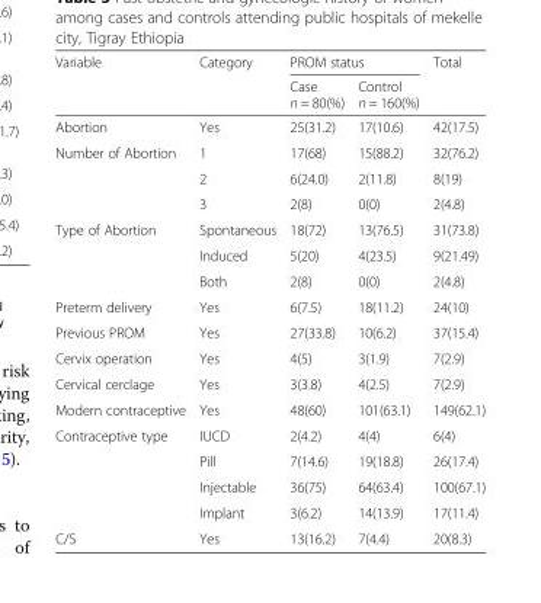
<table><thead><tr><td rowspan="2">Variable</td><td rowspan="2">Category</td><td colspan="2">PROM status</td><td rowspan="2">Total</td></tr><tr><td>Case n = 80(%)</td><td>Control n = 160(%)</td></tr></thead><tbody><tr><td>Abortion</td><td>Yes</td><td>25(31.2)</td><td>17(10.6)</td><td>42(17.5)</td></tr><tr><td rowspan="3">Number of Abortion</td><td>1</td><td>17(68)</td><td>15(88.2)</td><td>32(76.2)</td></tr><tr><td>2</td><td>6(24.0)</td><td>2(11.8)</td><td>8(19)</td></tr><tr><td>3</td><td>2(8)</td><td>0(0)</td><td>2(4.8)</td></tr><tr><td rowspan="3">Type of Abortion</td><td>Spontaneous</td><td>18(72)</td><td>13(76.5)</td><td>31(73.8)</td></tr><tr><td>Induced</td><td>5(20)</td><td>4(23.5)</td><td>9(21.49)</td></tr><tr><td>Both</td><td>2(8)</td><td>0(0)</td><td>2(4.8)</td></tr><tr><td>Preterm delivery</td><td>Yes</td><td>6(7.5)</td><td>18(11.2)</td><td>24(10)</td></tr><tr><td>Previous PROM</td><td>Yes</td><td>27(33.8)</td><td>10(6.2)</td><td>37(15.4)</td></tr><tr><td>Cervix operation</td><td>Yes</td><td>4(5)</td><td>3(1.9)</td><td>7(2.9)</td></tr><tr><td>Cervical cerclage</td><td>Yes</td><td>3(3.8)</td><td>4(2.5)</td><td>7(2.9)</td></tr><tr><td>Modern contraceptive</td><td>Yes</td><td>48(60)</td><td>101(63.1)</td><td>149(62.1)</td></tr><tr><td rowspan="4">Contraceptive type</td><td>IUCD</td><td>2(4.2)</td><td>4(4)</td><td>6(4)</td></tr><tr><td>Pill</td><td>7(14.6)</td><td>19(18.8)</td><td>26(17.4)</td></tr><tr><td>Injectable</td><td>36(75)</td><td>64(63.4)</td><td>100(67.1)</td></tr><tr><td>Implant</td><td>3(6.2)</td><td>14(13.9)</td><td>17(11.4)</td></tr><tr><td>C/S</td><td>Yes</td><td>13(16.2)</td><td>7(4.4)</td><td>20(8.3)</td></tr></tbody></table>